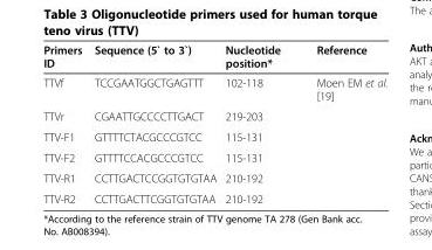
<table><thead><tr><td>Primers ID</td><td>Sequence (5` to 3`)</td><td>Nucleotide position*</td><td>Reference</td></tr></thead><tbody><tr><td>TTVf</td><td>TCCGAATGGCTGAGTTT</td><td>102-118</td><td>Moen EM et al. [19]</td></tr><tr><td>TTVr</td><td>CGAATTGCCCCTTGACT</td><td>219-203</td><td></td></tr><tr><td>TTV-F1</td><td>GTTTTCTACGCCCGTCC</td><td>115-131</td><td></td></tr><tr><td>TTV-F2</td><td>GTTTTCCACGCCCGTCC</td><td>115-131</td><td></td></tr><tr><td>TTV-R1</td><td>CCTTGACTCCGGTGTGTAA</td><td>210-192</td><td></td></tr><tr><td>TTV-R2</td><td>CCTTGACTTCGGTGTGTAA</td><td>210-192</td><td></td></tr></tbody></table>